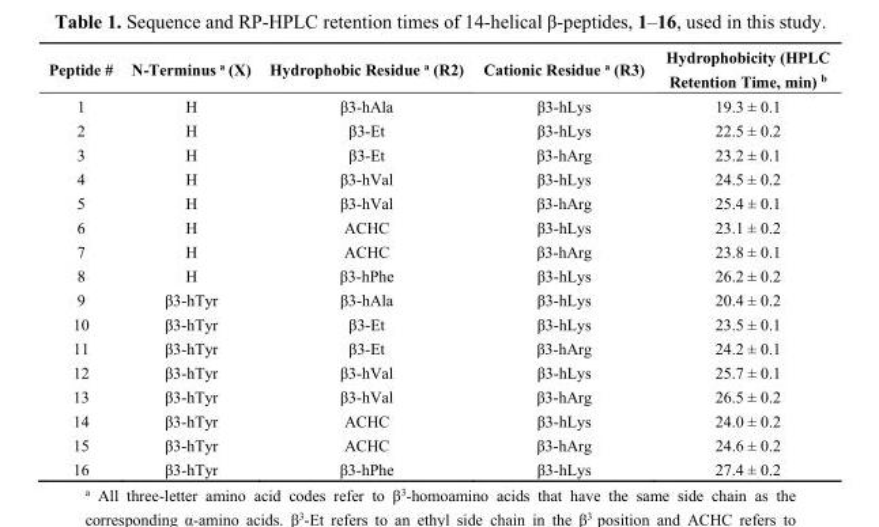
<table><thead><tr><td>Peptide #</td><td>N-Terminus <sup>a</sup> (X)</td><td>Hydrophobic Residue <sup>a</sup> (R2)</td><td>Cationic Residue <sup>a</sup> (R3)</td><td>Hydrophobicity (HPLC Retention Time, min) <sup>b</sup></td></tr></thead><tbody><tr><td>1</td><td>H</td><td>β3-hAla</td><td>β3-hLys</td><td>19.3 ± 0.1</td></tr><tr><td>2</td><td>H</td><td>β3-Et</td><td>β3-hLys</td><td>22.5 ± 0.2</td></tr><tr><td>3</td><td>H</td><td>β3-Et</td><td>β3-hArg</td><td>23.2 ± 0.1</td></tr><tr><td>4</td><td>H</td><td>β3-hVal</td><td>β3-hLys</td><td>24.5 ± 0.2</td></tr><tr><td>5</td><td>H</td><td>β3-hVal</td><td>β3-hArg</td><td>25.4 ± 0.1</td></tr><tr><td>6</td><td>H</td><td>ACHC</td><td>β3-hLys</td><td>23.1 ± 0.2</td></tr><tr><td>7</td><td>H</td><td>ACHC</td><td>β3-hArg</td><td>23.8 ± 0.1</td></tr><tr><td>8</td><td>H</td><td>β3-hPhe</td><td>β3-hLys</td><td>26.2 ± 0.2</td></tr><tr><td>9</td><td>β3-hTyr</td><td>β3-hAla</td><td>β3-hLys</td><td>20.4 ± 0.2</td></tr><tr><td>10</td><td>β3-hTyr</td><td>β3-Et</td><td>β3-hLys</td><td>23.5 ± 0.1</td></tr><tr><td>11</td><td>β3-hTyr</td><td>β3-Et</td><td>β3-hArg</td><td>24.2 ± 0.1</td></tr><tr><td>12</td><td>β3-hTyr</td><td>β3-hVal</td><td>β3-hLys</td><td>25.7 ± 0.1</td></tr><tr><td>13</td><td>β3-hTyr</td><td>β3-hVal</td><td>β3-hArg</td><td>26.5 ± 0.2</td></tr><tr><td>14</td><td>β3-hTyr</td><td>ACHC</td><td>β3-hLys</td><td>24.0 ± 0.2</td></tr><tr><td>15</td><td>β3-hTyr</td><td>ACHC</td><td>β3-hArg</td><td>24.6 ± 0.2</td></tr><tr><td>16</td><td>β3-hTyr</td><td>β3-hPhe</td><td>β3-hLys</td><td>27.4 ± 0.2</td></tr></tbody></table>